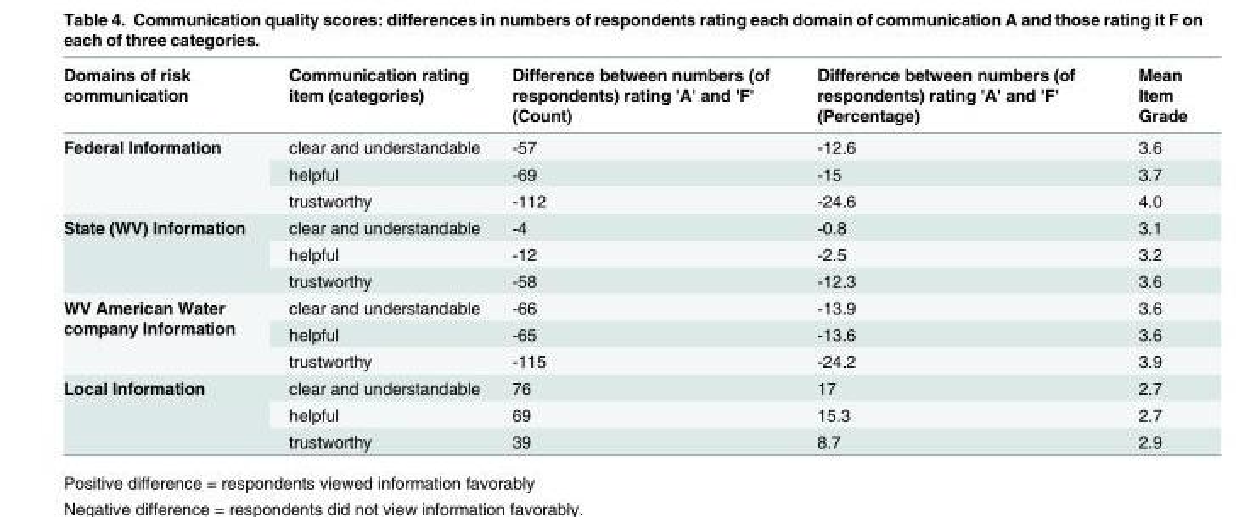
<table><thead><tr><td>Domains of risk communication</td><td>Communication rating item (categories)</td><td>Difference between numbers (of respondents) rating &#x27;A&#x27; and &#x27;F&#x27; (Count)</td><td>Difference between numbers (of respondents) rating &#x27;A&#x27; and &#x27;F&#x27; (Percentage)</td><td>Mean Item Grade</td></tr></thead><tbody><tr><td rowspan="3">Federal Information</td><td>clear and understandable</td><td>-57</td><td>-12.6</td><td>3.6</td></tr><tr><td>helpful</td><td>-69</td><td>-15</td><td>3.7</td></tr><tr><td>trustworthy</td><td>-112</td><td>-24.6</td><td>4.0</td></tr><tr><td rowspan="3">State (WV) Information</td><td>clear and understandable</td><td>-4</td><td>-0.8</td><td>3.1</td></tr><tr><td>helpful</td><td>-12</td><td>-2.5</td><td>3.2</td></tr><tr><td>trustworthy</td><td>-58</td><td>-12.3</td><td>3.6</td></tr><tr><td rowspan="3">WV American Water company Information</td><td>clear and understandable</td><td>-66</td><td>-13.9</td><td>3.6</td></tr><tr><td>helpful</td><td>-65</td><td>-13.6</td><td>3.6</td></tr><tr><td>trustworthy</td><td>-115</td><td>-24.2</td><td>3.9</td></tr><tr><td rowspan="3">Local Information</td><td>clear and understandable</td><td>76</td><td>17</td><td>2.7</td></tr><tr><td>helpful</td><td>69</td><td>15.3</td><td>2.7</td></tr><tr><td>trustworthy</td><td>39</td><td>8.7</td><td>2.9</td></tr></tbody></table>